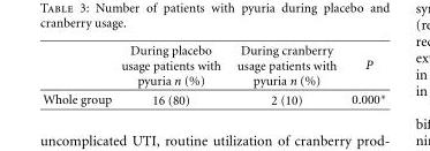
<table><thead><tr><td></td><td>During placebo usage patients with pyuria n (%)</td><td>During cranberry usage patients with pyuria n (%)</td><td>P</td></tr></thead><tbody><tr><td>Whole group</td><td>16 (80)</td><td>2 (10)</td><td>0.000∗</td></tr></tbody></table>